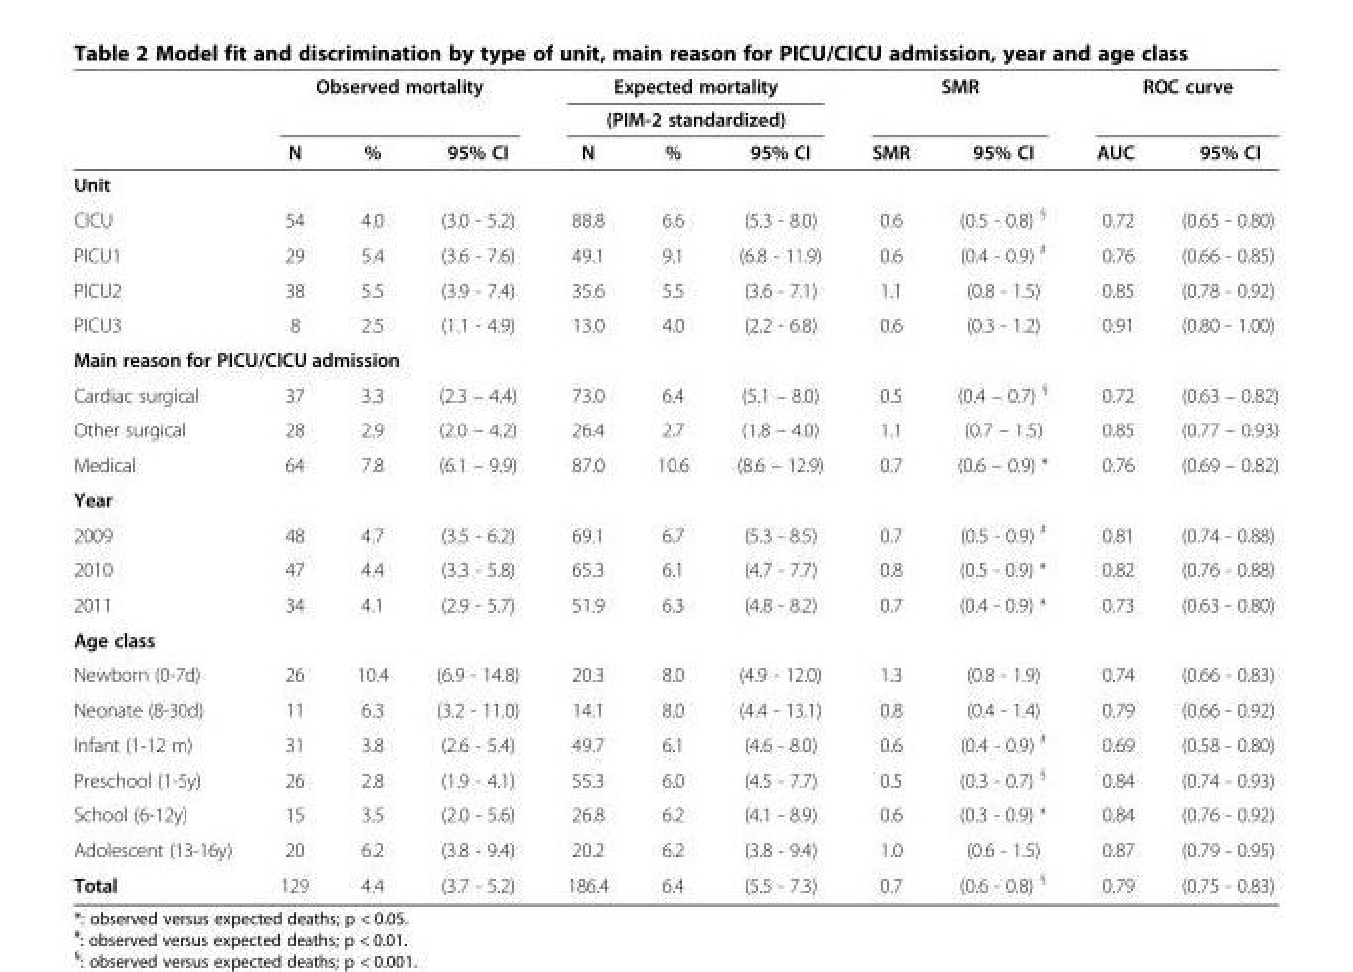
<table><thead><tr><td rowspan="3"></td><td rowspan="2" colspan="3">Observed mortality</td><td rowspan="2" colspan="3">Expected mortality (PIM-2 standardized)</td><td rowspan="2" colspan="2">SMR</td><td rowspan="2" colspan="2">ROC curve</td></tr><tr></tr><tr><td>N</td><td>%</td><td>95% CI</td><td>N</td><td>%</td><td>95% CI</td><td>SMR</td><td>95% CI</td><td>AUC</td><td>95% CI</td></tr></thead><tbody><tr><td colspan="11">Unit</td></tr><tr><td>CICU</td><td>54</td><td>4.0</td><td>(3.0 - 5.2)</td><td>88.8</td><td>6.6</td><td>(5.3 - 8.0)</td><td>0.6</td><td>(0.5 - 0.8) <sup>§</sup></td><td>0.72</td><td>(0.65 - 0.80)</td></tr><tr><td>PICU1</td><td>29</td><td>5.4</td><td>(3.6 - 7.6)</td><td>49.1</td><td>9.1</td><td>(6.8 - 11.9)</td><td>0.6</td><td>(0.4 - 0.9) <sup>#</sup></td><td>0.76</td><td>(0.66 - 0.85)</td></tr><tr><td>PICU2</td><td>38</td><td>5.5</td><td>(3.9 - 7.4)</td><td>35.6</td><td>5.5</td><td>(3.6 - 7.1)</td><td>1.1</td><td>(0.8 - 1.5)</td><td>0.85</td><td>(0.78 - 0.92)</td></tr><tr><td>PICU3</td><td>8</td><td>2.5</td><td>(1.1 - 4.9)</td><td>13.0</td><td>4.0</td><td>(2.2 - 6.8)</td><td>0.6</td><td>(0.3 - 1.2)</td><td>0.91</td><td>(0.80 - 1.00)</td></tr><tr><td colspan="11">Main reason for PICU/CICU admission</td></tr><tr><td>Cardiac surgical</td><td>37</td><td>3.3</td><td>(2.3 – 4.4)</td><td>73.0</td><td>6.4</td><td>(5.1 – 8.0)</td><td>0.5</td><td>(0.4 – 0.7) <sup>§</sup></td><td>0.72</td><td>(0.63 – 0.82)</td></tr><tr><td>Other surgical</td><td>28</td><td>2.9</td><td>(2.0 – 4.2)</td><td>26.4</td><td>2.7</td><td>(1.8 – 4.0)</td><td>1.1</td><td>(0.7 – 1.5)</td><td>0.85</td><td>(0.77 – 0.93)</td></tr><tr><td>Medical</td><td>64</td><td>7.8</td><td>(6.1 – 9.9)</td><td>87.0</td><td>10.6</td><td>(8.6 – 12.9)</td><td>0.7</td><td>(0.6 – 0.9) *</td><td>0.76</td><td>(0.69 – 0.82)</td></tr><tr><td colspan="11">Year</td></tr><tr><td>2009</td><td>48</td><td>4.7</td><td>(3.5 - 6.2)</td><td>69.1</td><td>6.7</td><td>(5.3 - 8.5)</td><td>0.7</td><td>(0.5 - 0.9) <sup>#</sup></td><td>0.81</td><td>(0.74 - 0.88)</td></tr><tr><td>2010</td><td>47</td><td>4.4</td><td>(3.3 - 5.8)</td><td>65.3</td><td>6.1</td><td>(4.7 - 7.7)</td><td>0.8</td><td>(0.5 - 0.9) *</td><td>0.82</td><td>(0.76 - 0.88)</td></tr><tr><td>2011</td><td>34</td><td>4.1</td><td>(2.9 - 5.7)</td><td>51.9</td><td>6.3</td><td>(4.8 - 8.2)</td><td>0.7</td><td>(0.4 - 0.9) *</td><td>0.73</td><td>(0.63 - 0.80)</td></tr><tr><td colspan="11">Age class</td></tr><tr><td>Newborn (0-7d)</td><td>26</td><td>10.4</td><td>(6.9 - 14.8)</td><td>20.3</td><td>8.0</td><td>(4.9 - 12.0)</td><td>1.3</td><td>(0.8 - 1.9)</td><td>0.74</td><td>(0.66 - 0.83)</td></tr><tr><td>Neonate (8-30d)</td><td>11</td><td>6.3</td><td>(3.2 - 11.0)</td><td>14.1</td><td>8.0</td><td>(4.4 - 13.1)</td><td>0.8</td><td>(0.4 - 1.4)</td><td>0.79</td><td>(0.66 - 0.92)</td></tr><tr><td>Infant (1-12 m)</td><td>31</td><td>3.8</td><td>(2.6 - 5.4)</td><td>49.7</td><td>6.1</td><td>(4.6 - 8.0)</td><td>0.6</td><td>(0.4 - 0.9) <sup>#</sup></td><td>0.69</td><td>(0.58 - 0.80)</td></tr><tr><td>Preschool (1-5y)</td><td>26</td><td>2.8</td><td>(1.9 - 4.1)</td><td>55.3</td><td>6.0</td><td>(4.5 - 7.7)</td><td>0.5</td><td>(0.3 - 0.7) <sup>§</sup></td><td>0.84</td><td>(0.74 - 0.93)</td></tr><tr><td>School (6-12y)</td><td>15</td><td>3.5</td><td>(2.0 - 5.6)</td><td>26.8</td><td>6.2</td><td>(4.1 - 8.9)</td><td>0.6</td><td>(0.3 - 0.9) *</td><td>0.84</td><td>(0.76 - 0.92)</td></tr><tr><td>Adolescent (13-16y)</td><td>20</td><td>6.2</td><td>(3.8 - 9.4)</td><td>20.2</td><td>6.2</td><td>(3.8 - 9.4)</td><td>1.0</td><td>(0.6 - 1.5)</td><td>0.87</td><td>(0.79 - 0.95)</td></tr><tr><td>Total</td><td>129</td><td>4.4</td><td>(3.7 - 5.2)</td><td>186.4</td><td>6.4</td><td>(5.5 - 7.3)</td><td>0.7</td><td>(0.6 - 0.8) <sup>§</sup></td><td>0.79</td><td>(0.75 - 0.83)</td></tr></tbody></table>